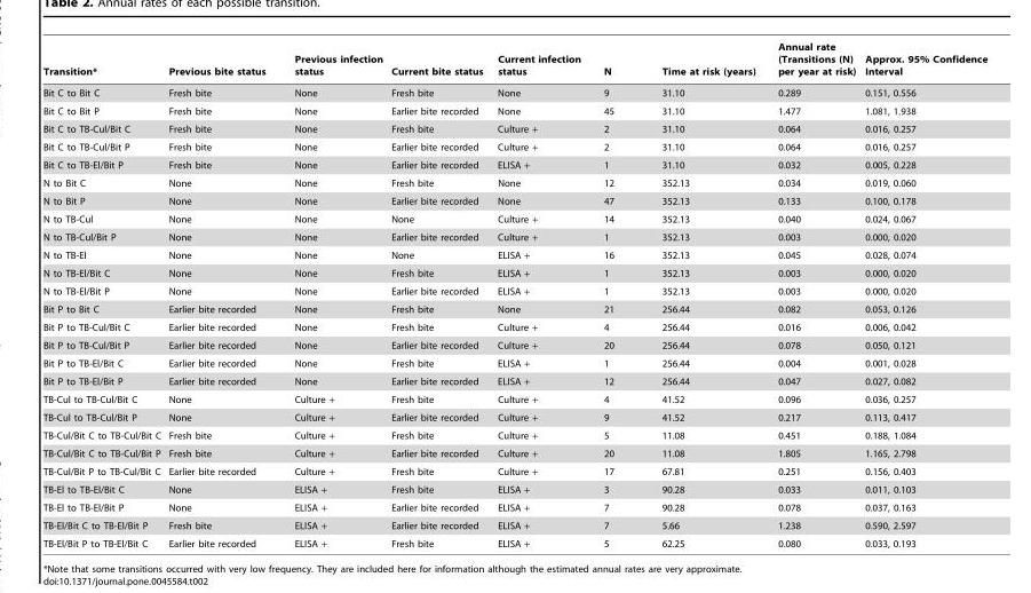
<table><thead><tr><td>Transition*</td><td>Previous bite status</td><td>Previous infection status</td><td>Current bite status</td><td>Current infection status</td><td>N</td><td>Time at risk (years)</td><td>Annual rate (Transitions (N) per year at risk)</td><td>Approx. 95% Confidence Interval</td></tr></thead><tbody><tr><td>Bit C to Bit C</td><td>Fresh bite</td><td>None</td><td>Fresh bite</td><td>None</td><td>9</td><td>31.10</td><td>0.289</td><td>0.151, 0.556</td></tr><tr><td>Bit C to Bit P</td><td>Fresh bite</td><td>None</td><td>Earlier bite recorded</td><td>None</td><td>45</td><td>31.10</td><td>1.477</td><td>1.081, 1.938</td></tr><tr><td>Bit C to TB-Cul/Bit C</td><td>Fresh bite</td><td>None</td><td>Fresh bite</td><td>Culture +</td><td>2</td><td>31.10</td><td>0.064</td><td>0.016, 0.257</td></tr><tr><td>Bit C to TB-Cul/Bit P</td><td>Fresh bite</td><td>None</td><td>Earlier bite recorded</td><td>Culture +</td><td>2</td><td>31.10</td><td>0.064</td><td>0.016, 0.257</td></tr><tr><td>Bit C to TB-El/Bit P</td><td>Fresh bite</td><td>None</td><td>Earlier bite recorded</td><td>ELISA +</td><td>1</td><td>31.10</td><td>0.032</td><td>0.005, 0.228</td></tr><tr><td>N to Bit C</td><td>None</td><td>None</td><td>Fresh bite</td><td>None</td><td>12</td><td>352.13</td><td>0.034</td><td>0.019, 0.060</td></tr><tr><td>N to Bit P</td><td>None</td><td>None</td><td>Earlier bite recorded</td><td>None</td><td>47</td><td>352.13</td><td>0.133</td><td>0.100, 0.178</td></tr><tr><td>N to TB-Cul</td><td>None</td><td>None</td><td>None</td><td>Culture +</td><td>14</td><td>352.13</td><td>0.040</td><td>0.024, 0.067</td></tr><tr><td>N to TB-Cul/Bit P</td><td>None</td><td>None</td><td>Earlier bite recorded</td><td>Culture +</td><td>1</td><td>352.13</td><td>0.003</td><td>0.000, 0.020</td></tr><tr><td>N to TB-El</td><td>None</td><td>None</td><td>None</td><td>ELISA +</td><td>16</td><td>352.13</td><td>0.045</td><td>0.028, 0.074</td></tr><tr><td>N to TB-El/Bit C</td><td>None</td><td>None</td><td>Fresh bite</td><td>ELISA +</td><td>1</td><td>352.13</td><td>0.003</td><td>0.000, 0.020</td></tr><tr><td>N to TB-El/Bit P</td><td>None</td><td>None</td><td>Earlier bite recorded</td><td>ELISA +</td><td>1</td><td>352.13</td><td>0.003</td><td>0.000, 0.020</td></tr><tr><td>Bit P to Bit C</td><td>Earlier bite recorded</td><td>None</td><td>Fresh bite</td><td>None</td><td>21</td><td>256.44</td><td>0.082</td><td>0.053, 0.126</td></tr><tr><td>Bit P to TB-Cul/Bit C</td><td>Earlier bite recorded</td><td>None</td><td>Fresh bite</td><td>Culture +</td><td>4</td><td>256.44</td><td>0.016</td><td>0.006, 0.042</td></tr><tr><td>Bit P to TB-Cul/Bit P</td><td>Earlier bite recorded</td><td>None</td><td>Earlier bite recorded</td><td>Culture +</td><td>20</td><td>256.44</td><td>0.078</td><td>0.050, 0.121</td></tr><tr><td>Bit P to TB-El/Bit C</td><td>Earlier bite recorded</td><td>None</td><td>Fresh bite</td><td>ELISA +</td><td>1</td><td>256.44</td><td>0.004</td><td>0.001, 0.028</td></tr><tr><td>Bit P to TB-El/Bit P</td><td>Earlier bite recorded</td><td>None</td><td>Earlier bite recorded</td><td>ELISA +</td><td>12</td><td>256.44</td><td>0.047</td><td>0.027, 0.082</td></tr><tr><td>TB-Cul to TB-Cul/Bit C</td><td>None</td><td>Culture +</td><td>Fresh bite</td><td>Culture +</td><td>4</td><td>41.52</td><td>0.096</td><td>0.036, 0.257</td></tr><tr><td>TB-Cul to TB-Cul/Bit P</td><td>None</td><td>Culture +</td><td>Earlier bite recorded</td><td>Culture +</td><td>9</td><td>41.52</td><td>0.217</td><td>0.113, 0.417</td></tr><tr><td>TB-Cul/Bit C to TB-Cul/Bit C</td><td>Fresh bite</td><td>Culture +</td><td>Fresh bite</td><td>Culture +</td><td>5</td><td>11.08</td><td>0.451</td><td>0.188, 1.084</td></tr><tr><td>TB-Cul/Bit C to TB-Cul/Bit P</td><td>Fresh bite</td><td>Culture +</td><td>Earlier bite recorded</td><td>Culture +</td><td>20</td><td>11.08</td><td>1.805</td><td>1.165, 2.798</td></tr><tr><td>TB-Cul/Bit P to TB-Cul/Bit C</td><td>Earlier bite recorded</td><td>Culture +</td><td>Fresh bite</td><td>Culture +</td><td>17</td><td>67.81</td><td>0.251</td><td>0.156, 0.403</td></tr><tr><td>TB-El to TB-El/Bit C</td><td>None</td><td>ELISA +</td><td>Fresh bite</td><td>ELISA +</td><td>3</td><td>90.28</td><td>0.033</td><td>0.011, 0.103</td></tr><tr><td>TB-El to TB-El/Bit P</td><td>None</td><td>ELISA +</td><td>Earlier bite recorded</td><td>ELISA +</td><td>7</td><td>90.28</td><td>0.078</td><td>0.037, 0.163</td></tr><tr><td>TB-El/Bit C to TB-El/Bit P</td><td>Fresh bite</td><td>ELISA +</td><td>Earlier bite recorded</td><td>ELISA +</td><td>7</td><td>5.66</td><td>1.238</td><td>0.590, 2.597</td></tr><tr><td>TB-El/Bit P to TB-El/Bit C</td><td>Earlier bite recorded</td><td>ELISA +</td><td>Fresh bite</td><td>ELISA +</td><td>5</td><td>62.25</td><td>0.080</td><td>0.033, 0.193</td></tr></tbody></table>